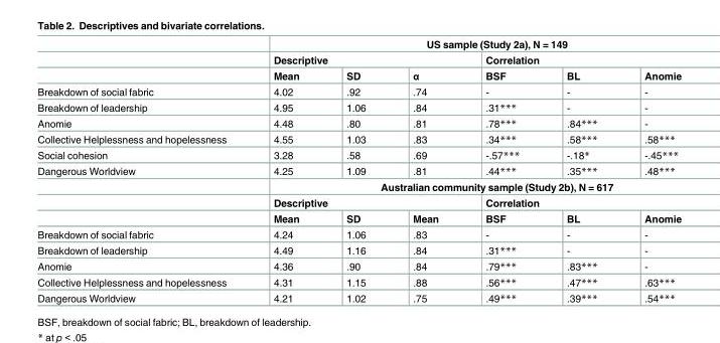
<table><thead><tr><td rowspan="3"></td><td colspan="6">US sample (Study 2a), N = 149</td></tr><tr><td colspan="3">Descriptive</td><td colspan="3">Correlation</td></tr><tr><td>Mean</td><td>SD</td><td>α</td><td>BSF</td><td>BL</td><td>Anomie</td></tr></thead><tbody><tr><td>Breakdown of social fabric</td><td>4.02</td><td>.92</td><td>.74</td><td>-</td><td>-</td><td>-</td></tr><tr><td>Breakdown of leadership</td><td>4.95</td><td>1.06</td><td>.84</td><td>.31***</td><td>-</td><td>-</td></tr><tr><td>Anomie</td><td>4.48</td><td>.80</td><td>.81</td><td>.78***</td><td>.84***</td><td>-</td></tr><tr><td>Collective Helplessness and hopelessness</td><td>4.55</td><td>1.03</td><td>.83</td><td>.34***</td><td>.58***</td><td>.58***</td></tr><tr><td>Social cohesion</td><td>3.28</td><td>.58</td><td>.69</td><td>-.57***</td><td>-.18*</td><td>-.45***</td></tr><tr><td rowspan="4">Dangerous Worldview</td><td>4.25</td><td>1.09</td><td>.81</td><td>.44***</td><td>.35***</td><td>.48***</td></tr><tr><td colspan="6">Australian community sample (Study 2b), N = 617</td></tr><tr><td colspan="3">Descriptive</td><td colspan="3">Correlation</td></tr><tr><td>Mean</td><td>SD</td><td>Mean</td><td>BSF</td><td>BL</td><td>Anomie</td></tr><tr><td>Breakdown of social fabric</td><td>4.24</td><td>1.06</td><td>.83</td><td>-</td><td>-</td><td>-</td></tr><tr><td>Breakdown of leadership</td><td>4.49</td><td>1.16</td><td>.84</td><td>.31***</td><td>-</td><td>-</td></tr><tr><td>Anomie</td><td>4.36</td><td>.90</td><td>.84</td><td>.79***</td><td>.83***</td><td>-</td></tr><tr><td>Collective Helplessness and hopelessness</td><td>4.31</td><td>1.15</td><td>.88</td><td>.56***</td><td>.47***</td><td>.63***</td></tr><tr><td>Dangerous Worldview</td><td>4.21</td><td>1.02</td><td>.75</td><td>.49***</td><td>.39***</td><td>.54***</td></tr></tbody></table>